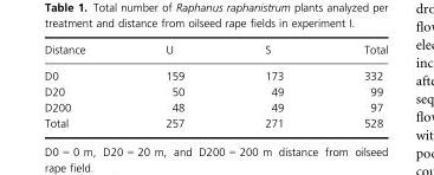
<table><thead><tr><td>Distance</td><td>U</td><td>S</td><td>Total</td></tr></thead><tbody><tr><td>D0</td><td>159</td><td>173</td><td>332</td></tr><tr><td>D20</td><td>50</td><td>49</td><td>99</td></tr><tr><td>D200</td><td>48</td><td>49</td><td>97</td></tr><tr><td>Total</td><td>257</td><td>271</td><td>528</td></tr></tbody></table>